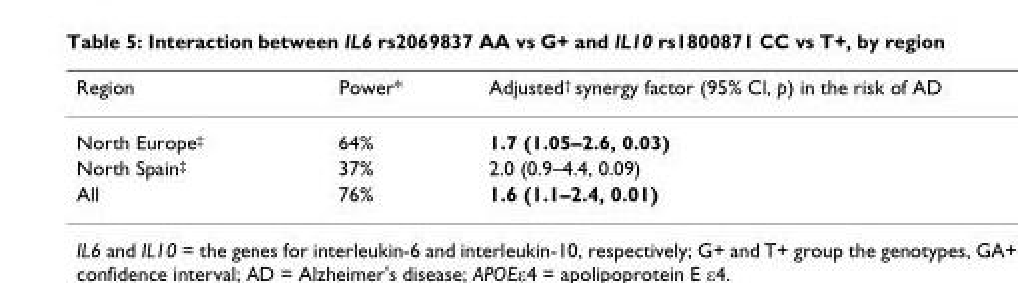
<table><thead><tr><td>Region</td><td>Power*</td><td>Adjusted<sup>†</sup> synergy factor (95% CI, p) in the risk of AD</td></tr></thead><tbody><tr><td>North Europe<sup>‡</sup></td><td>64%</td><td>1.7 (1.05–2.6, 0.03)</td></tr><tr><td>North Spain<sup>‡</sup></td><td>37%</td><td>2.0 (0.9–4.4, 0.09)</td></tr><tr><td>All</td><td>76%</td><td>1.6 (1.1–2.4, 0.01)</td></tr></tbody></table>